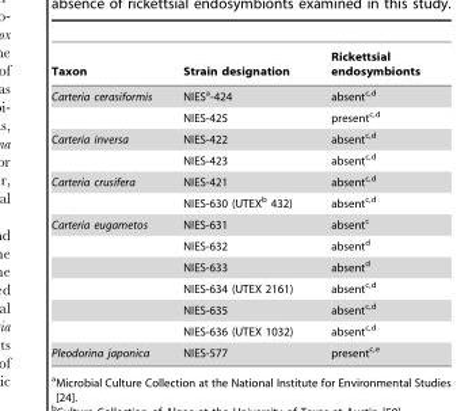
<table><thead><tr><td>Taxon</td><td>Strain designation</td><td>Rickettsial endosymbionts</td></tr></thead><tbody><tr><td rowspan="2">Carteria cerasiformis</td><td>NIES<sup>a</sup>-424</td><td>absent<sup>c,</sup>d</td></tr><tr><td>NIES-425</td><td>present<sup>c,</sup>d</td></tr><tr><td rowspan="2">Carteria inversa</td><td>NIES-422</td><td>absent<sup>c,</sup>d</td></tr><tr><td>NIES-423</td><td>absent<sup>c,</sup>d</td></tr><tr><td rowspan="2">Carteria crusifera</td><td>NIES-421</td><td>absent<sup>c,</sup>d</td></tr><tr><td>NIES-630 (UTEX<sup>b</sup> 432)</td><td>absent<sup>c,</sup>d</td></tr><tr><td rowspan="6">Carteria eugametos</td><td>NIES-631</td><td>absent<sup>c</sup></td></tr><tr><td>NIES-632</td><td>absent<sup>d</sup></td></tr><tr><td>NIES-633</td><td>absent<sup>d</sup></td></tr><tr><td>NIES-634 (UTEX 2161)</td><td>absent<sup>c,</sup>d</td></tr><tr><td>NIES-635</td><td>absent<sup>c,</sup>d</td></tr><tr><td>NIES-636 (UTEX 1032)</td><td>absent<sup>c,</sup>d</td></tr><tr><td>Pleodorina japonica</td><td>NIES-577</td><td>present<sup>c,</sup>e</td></tr></tbody></table>